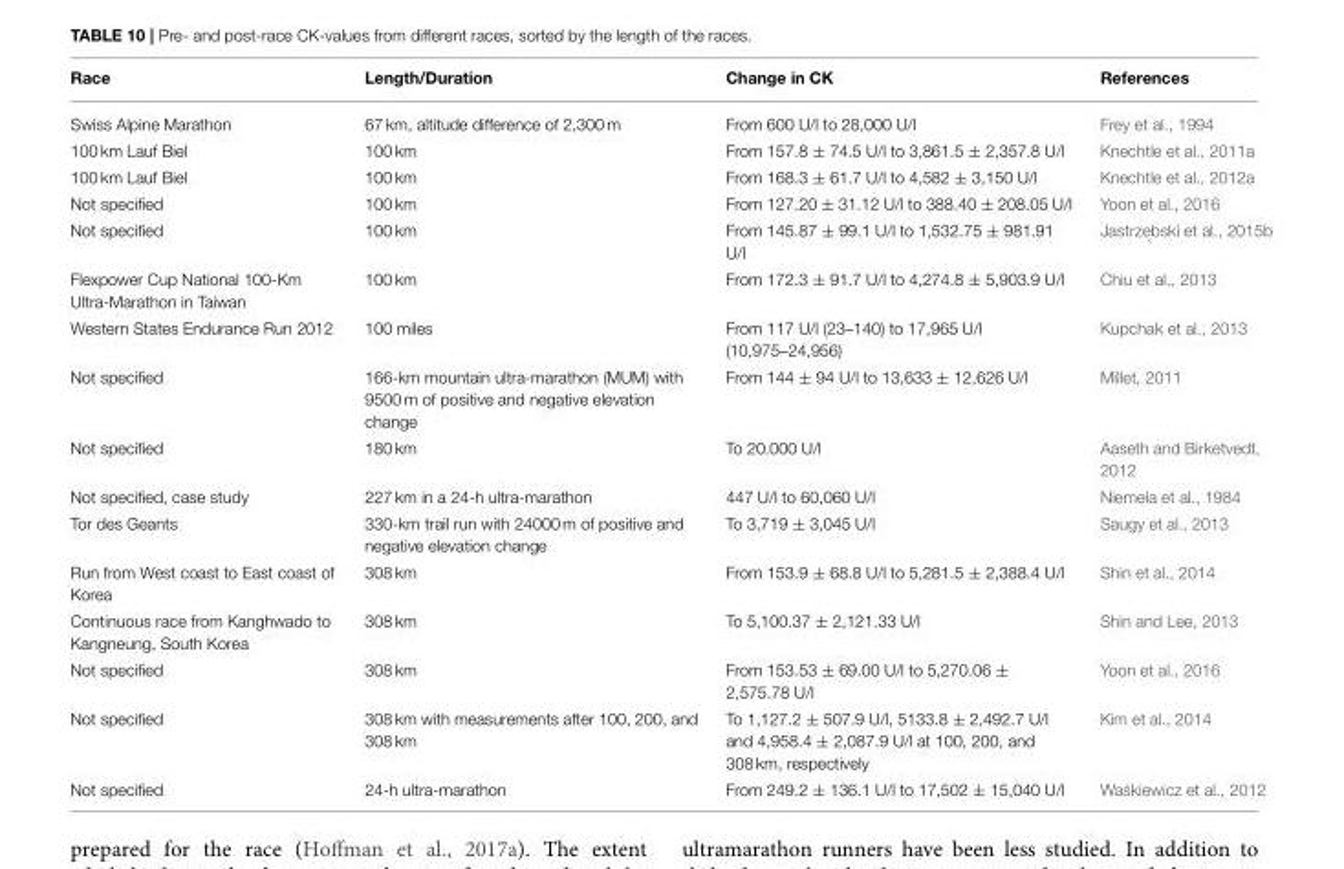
<table><thead><tr><td>Race</td><td>Length/Duration</td><td>Change in CK</td><td>References</td></tr></thead><tbody><tr><td>Swiss Alpine Marathon</td><td>67 km, altitude difference of 2,300 m</td><td>From 600 U/l to 28,000 U/l</td><td>Frey et al., 1994</td></tr><tr><td>100 km Lauf Biel</td><td>100 km</td><td>From 157.8 ± 74.5 U/l to 3,861.5 ± 2,357.8 U/l</td><td>Knechtle et al., 2011a</td></tr><tr><td>100 km Lauf Biel</td><td>100 km</td><td>From 168.3 ± 61.7 U/l to 4,582 ± 3,150 U/l</td><td>Knechtle et al., 2012a</td></tr><tr><td>Not specified</td><td>100 km</td><td>From 127.20 ± 31.12 U/l to 388.40 ± 208.05 U/l</td><td>Yoon et al., 2016</td></tr><tr><td>Not specified</td><td>100 km</td><td>From 145.87 ± 99.1 U/l to 1,532.75 ± 981.91 U/l</td><td>Jastrze˛bski et al., 2015b</td></tr><tr><td>Flexpower Cup National 100-Km Ultra-Marathon in Taiwan</td><td>100 km</td><td>From 172.3 ± 91.7 U/l to 4,274.8 ± 5,903.9 U/l</td><td>Chiu et al., 2013</td></tr><tr><td>Western States Endurance Run 2012</td><td>100 miles</td><td>From 117 U/l (23–140) to 17,965 U/l (10,975–24,956)</td><td>Kupchak et al., 2013</td></tr><tr><td>Not specified</td><td>166-km mountain ultra-marathon (MUM) with 9500 m of positive and negative elevation change</td><td>From 144 ± 94 U/l to 13,633 ± 12,626 U/l</td><td>Millet, 2011</td></tr><tr><td>Not specified</td><td>180 km</td><td>To 20.000 U/l</td><td>Aaseth and Birketvedt, 2012</td></tr><tr><td>Not specified, case study</td><td>227 km in a 24-h ultra-marathon</td><td>447 U/l to 60,060 U/l</td><td>Niemela et al., 1984</td></tr><tr><td>Tor des Geants</td><td>330-km trail run with 24000 m of positive and negative elevation change</td><td>To 3,719 ± 3,045 U/l</td><td>Saugy et al., 2013</td></tr><tr><td>Run from West coast to East coast of Korea</td><td>308 km</td><td>From 153.9 ± 68.8 U/l to 5,281.5 ± 2,388.4 U/l</td><td>Shin et al., 2014</td></tr><tr><td>Continuous race from Kanghwado to Kangneung, South Korea</td><td>308 km</td><td>To 5,100.37 ± 2,121.33 U/l</td><td>Shin and Lee, 2013</td></tr><tr><td>Not specified</td><td>308 km</td><td>From 153.53 ± 69.00 U/l to 5,270.06 ± 2,575.78 U/l</td><td>Yoon et al., 2016</td></tr><tr><td>Not specified</td><td>308 km with measurements after 100, 200, and 308 km</td><td>To 1,127.2 ± 507.9 U/l, 5133.8 ± 2,492.7 U/l and 4,958.4 ± 2,087.9 U/l at 100, 200, and 308 km, respectively</td><td>Kim et al., 2014</td></tr><tr><td>Not specified</td><td>24-h ultra-marathon</td><td>From 249.2 ± 136.1 U/l to 17,502 ± 15,040 U/l</td><td>Wa´skiewicz et al., 2012</td></tr></tbody></table>